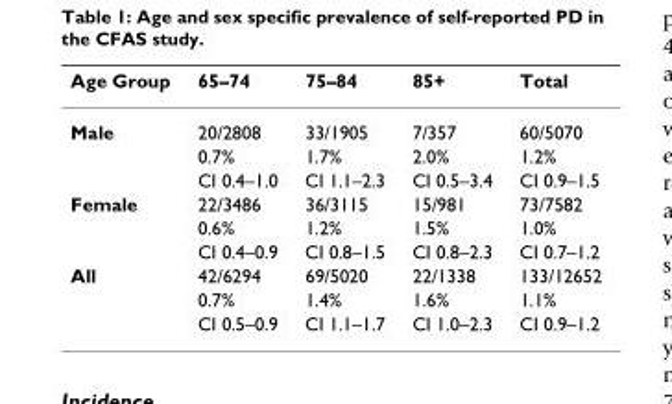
<table><thead><tr><td>Age Group</td><td>65–74</td><td>75–84</td><td>85+</td><td>Total</td></tr></thead><tbody><tr><td rowspan="3">Male</td><td>20/2808</td><td>33/1905</td><td>7/357</td><td>60/5070</td></tr><tr><td>0.7%</td><td>1.7%</td><td>2.0%</td><td>1.2%</td></tr><tr><td>CI 0.4–1.0</td><td>CI 1.1–2.3</td><td>CI 0.5–3.4</td><td>CI 0.9–1.5</td></tr><tr><td rowspan="3">Female</td><td>22/3486</td><td>36/3115</td><td>15/981</td><td>73/7582</td></tr><tr><td>0.6%</td><td>1.2%</td><td>1.5%</td><td>1.0%</td></tr><tr><td>CI 0.4–0.9</td><td>CI 0.8–1.5</td><td>CI 0.8–2.3</td><td>CI 0.7–1.2</td></tr><tr><td rowspan="3">All</td><td>42/6294</td><td>69/5020</td><td>22/1338</td><td>133/12652</td></tr><tr><td>0.7%</td><td>1.4%</td><td>1.6%</td><td>1.1%</td></tr><tr><td>CI 0.5–0.9</td><td>CI 1.1–1.7</td><td>CI 1.0–2.3</td><td>CI 0.9–1.2</td></tr></tbody></table>